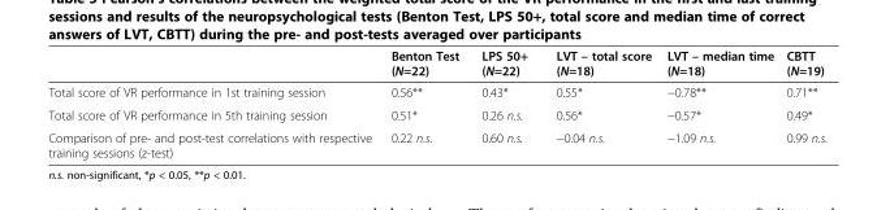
<table><thead><tr><td></td><td>Benton Test (N=22)</td><td>LPS 50+ (N=22)</td><td>LVT – total score (N=18)</td><td>LVT – median time (N=18)</td><td>CBTT (N=19)</td></tr></thead><tbody><tr><td>Total score of VR performance in 1st training session</td><td>0.56**</td><td>0.43*</td><td>0.55*</td><td>−0.78**</td><td>0.71**</td></tr><tr><td>Total score of VR performance in 5th training session</td><td>0.51*</td><td>0.26 n.s.</td><td>0.56*</td><td>−0.57*</td><td>0.49*</td></tr><tr><td>Comparison of pre- and post-test correlations with respective training sessions (z-test)</td><td>0.22 n.s.</td><td>0.60 n.s.</td><td>−0.04 n.s.</td><td>−1.09 n.s.</td><td>0.99 n.s.</td></tr></tbody></table>